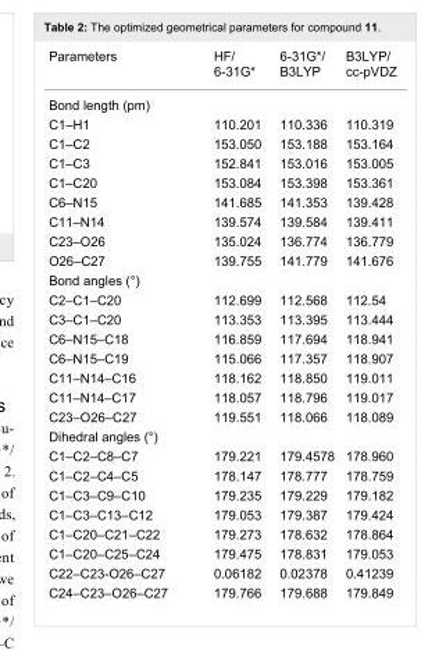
<table><tbody><tr><td>Parameters</td><td>HF/ 6-31G*</td><td>6-31G*/ B3LYP</td><td>B3LYP/ cc-pVDZ</td></tr><tr><td colspan="4">Bond length (pm)</td></tr><tr><td>C1–H1</td><td>110.201</td><td>110.336</td><td>110.319</td></tr><tr><td>C1–C2</td><td>153.050</td><td>153.188</td><td>153.164</td></tr><tr><td>C1–C3</td><td>152.841</td><td>153.016</td><td>153.005</td></tr><tr><td>C1–C20</td><td>153.084</td><td>153.398</td><td>153.361</td></tr><tr><td>C6–N15</td><td>141.685</td><td>141.353</td><td>139.428</td></tr><tr><td>C11–N14</td><td>139.574</td><td>139.584</td><td>139.411</td></tr><tr><td>C23–O26</td><td>135.024</td><td>136.774</td><td>136.779</td></tr><tr><td>O26–C27</td><td>139.755</td><td>141.779</td><td>141.676</td></tr><tr><td colspan="4">Bond angles (°)</td></tr><tr><td>C2–C1–C20</td><td>112.699</td><td>112.568</td><td>112.54</td></tr><tr><td>C3–C1–C20</td><td>113.353</td><td>113.395</td><td>113.444</td></tr><tr><td>C6–N15–C18</td><td>116.859</td><td>117.694</td><td>118.941</td></tr><tr><td>C6–N15–C19</td><td>115.066</td><td>117.357</td><td>118.907</td></tr><tr><td>C11–N14–C16</td><td>118.162</td><td>118.850</td><td>119.011</td></tr><tr><td>C11–N14–C17</td><td>118.057</td><td>118.796</td><td>119.017</td></tr><tr><td>C23–O26–C27</td><td>119.551</td><td>118.066</td><td>118.089</td></tr><tr><td colspan="4">Dihedral angles (°)</td></tr><tr><td>C1–C2–C8–C7</td><td>179.221</td><td>179.4578</td><td>178.960</td></tr><tr><td>C1–C2–C4–C5</td><td>178.147</td><td>178.777</td><td>178.759</td></tr><tr><td>C1–C3–C9–C10</td><td>179.235</td><td>179.229</td><td>179.182</td></tr><tr><td>C1–C3–C13–C12</td><td>179.053</td><td>179.387</td><td>179.424</td></tr><tr><td>C1–C20–C21–C22</td><td>179.273</td><td>178.632</td><td>178.864</td></tr><tr><td>C1–C20–C25–C24</td><td>179.475</td><td>178.831</td><td>179.053</td></tr><tr><td>C22–C23-O26–C27</td><td>0.06182</td><td>0.02378</td><td>0.41239</td></tr><tr><td>C24–C23–O26–C27</td><td>179.766</td><td>179.688</td><td>179.849</td></tr></tbody></table>